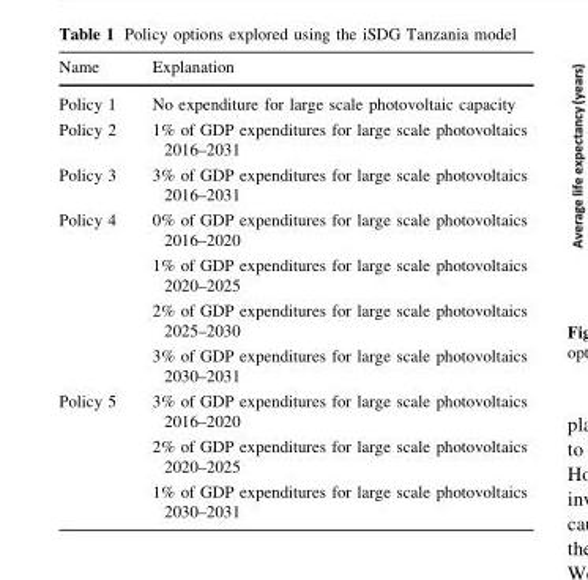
<table><thead><tr><td>Name</td><td>Explanation</td></tr></thead><tbody><tr><td>Policy 1</td><td>No expenditure for large scale photovoltaic capacity</td></tr><tr><td>Policy 2</td><td>1% of GDP expenditures for large scale photovoltaics 2016–2031</td></tr><tr><td>Policy 3</td><td>3% of GDP expenditures for large scale photovoltaics 2016–2031</td></tr><tr><td>Policy 4</td><td>0% of GDP expenditures for large scale photovoltaics 2016–2020 1% of GDP expenditures for large scale photovoltaics 2020–2025 2% of GDP expenditures for large scale photovoltaics 2025–2030 3% of GDP expenditures for large scale photovoltaics 2030–2031</td></tr><tr><td>Policy 5</td><td>3% of GDP expenditures for large scale photovoltaics 2016–2020 2% of GDP expenditures for large scale photovoltaics 2020–2025 1% of GDP expenditures for large scale photovoltaics 2030–2031</td></tr></tbody></table>